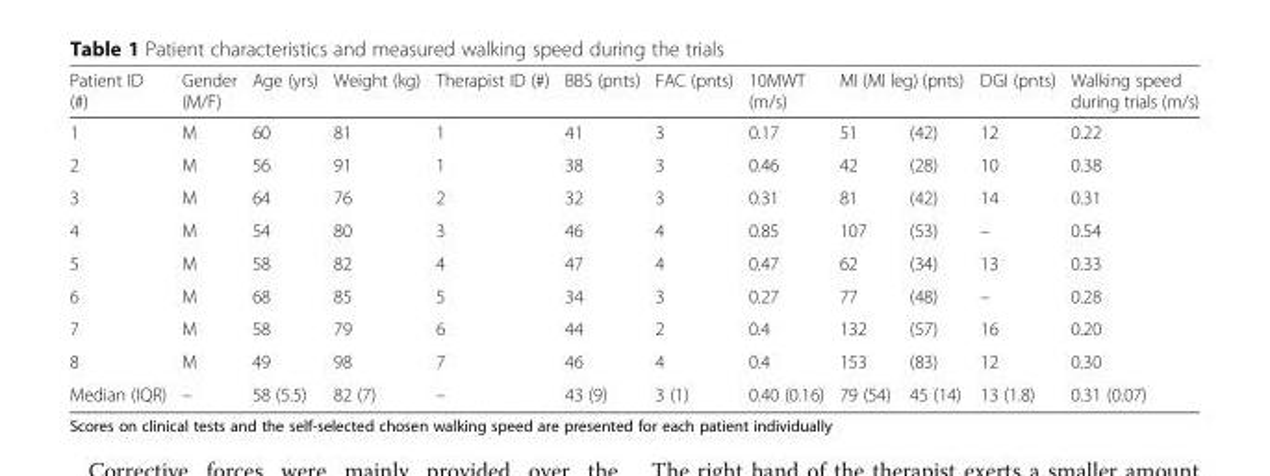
<table><thead><tr><td rowspan="2">Patient ID (#) 1</td><td rowspan="2">Gender (M/F) M</td><td rowspan="2">Age (yrs) 60</td><td rowspan="2">Weight (kg) 81</td><td rowspan="2">Therapist ID (#) 1</td><td rowspan="2">BBS (pnts) 41</td><td rowspan="2">FAC (pnts) 3</td><td rowspan="2">10MWT (m/s) 0.17</td><td colspan="2">MI (MI leg) (pnts)</td><td rowspan="2">DGI (pnts) 12</td><td rowspan="2">Walking speed during trials (m/s) 0.22</td></tr><tr><td>51</td><td>(42)</td></tr></thead><tbody><tr><td>2</td><td>M</td><td>56</td><td>91</td><td>1</td><td>38</td><td>3</td><td>0.46</td><td>42</td><td>(28)</td><td>10</td><td>0.38</td></tr><tr><td>3</td><td>M</td><td>64</td><td>76</td><td>2</td><td>32</td><td>3</td><td>0.31</td><td>81</td><td>(42)</td><td>14</td><td>0.31</td></tr><tr><td>4</td><td>M</td><td>54</td><td>80</td><td>3</td><td>46</td><td>4</td><td>0.85</td><td>107</td><td>(53)</td><td>–</td><td>0.54</td></tr><tr><td>5</td><td>M</td><td>58</td><td>82</td><td>4</td><td>47</td><td>4</td><td>0.47</td><td>62</td><td>(34)</td><td>13</td><td>0.33</td></tr><tr><td>6</td><td>M</td><td>68</td><td>85</td><td>5</td><td>34</td><td>3</td><td>0.27</td><td>77</td><td>(48)</td><td>–</td><td>0.28</td></tr><tr><td>7</td><td>M</td><td>58</td><td>79</td><td>6</td><td>44</td><td>2</td><td>0.4</td><td>132</td><td>(57)</td><td>16</td><td>0.20</td></tr><tr><td>8</td><td>M</td><td>49</td><td>98</td><td>7</td><td>46</td><td>4</td><td>0.4</td><td>153</td><td>(83)</td><td>12</td><td>0.30</td></tr><tr><td>Median (IQR)</td><td>–</td><td>58 (5.5)</td><td>82 (7)</td><td>–</td><td>43 (9)</td><td>3 (1)</td><td>0.40 (0.16)</td><td>79 (54)</td><td>45 (14)</td><td>13 (1.8)</td><td>0.31 (0.07)</td></tr></tbody></table>